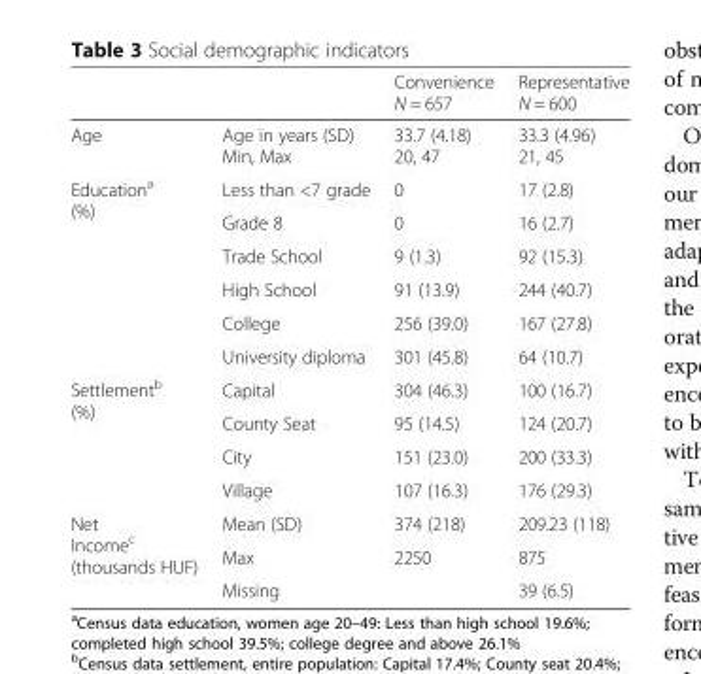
<table><thead><tr><td></td><td></td><td>Convenience N = 657</td><td>Representative N = 600</td></tr></thead><tbody><tr><td>Age</td><td>Age in years (SD) Min, Max</td><td>33.7 (4.18) 20, 47</td><td>33.3 (4.96) 21, 45</td></tr><tr><td rowspan="6">Education<sup>a</sup> (%)</td><td>Less than &lt;7 grade</td><td>0</td><td>17 (2.8)</td></tr><tr><td>Grade 8</td><td>0</td><td>16 (2.7)</td></tr><tr><td>Trade School</td><td>9 (1.3)</td><td>92 (15.3)</td></tr><tr><td>High School</td><td>91 (13.9)</td><td>244 (40.7)</td></tr><tr><td>College</td><td>256 (39.0)</td><td>167 (27.8)</td></tr><tr><td>University diploma</td><td>301 (45.8)</td><td>64 (10.7)</td></tr><tr><td rowspan="4">Settlement<sup>b</sup> (%)</td><td>Capital</td><td>304 (46.3)</td><td>100 (16.7)</td></tr><tr><td>County Seat</td><td>95 (14.5)</td><td>124 (20.7)</td></tr><tr><td>City</td><td>151 (23.0)</td><td>200 (33.3)</td></tr><tr><td>Village</td><td>107 (16.3)</td><td>176 (29.3)</td></tr><tr><td rowspan="3">Net Income<sup>c</sup> (thousands HUF)</td><td>Mean (SD)</td><td>374 (218)</td><td>209.23 (118)</td></tr><tr><td>Max</td><td>2250</td><td>875</td></tr><tr><td>Missing</td><td></td><td>39 (6.5)</td></tr></tbody></table>